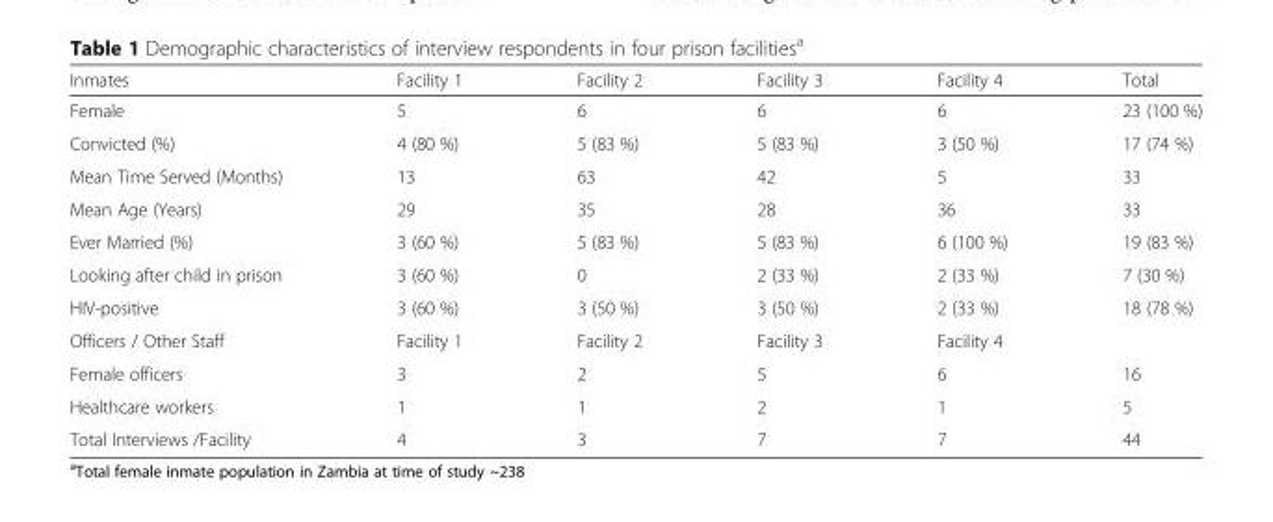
<table><thead><tr><td>Inmates</td><td>Facility 1</td><td>Facility 2</td><td>Facility 3</td><td>Facility 4</td><td>Total</td></tr></thead><tbody><tr><td>Female</td><td>5</td><td>6</td><td>6</td><td>6</td><td>23 (100 %)</td></tr><tr><td>Convicted (%)</td><td>4 (80 %)</td><td>5 (83 %)</td><td>5 (83 %)</td><td>3 (50 %)</td><td>17 (74 %)</td></tr><tr><td>Mean Time Served (Months)</td><td>13</td><td>63</td><td>42</td><td>5</td><td>33</td></tr><tr><td>Mean Age (Years)</td><td>29</td><td>35</td><td>28</td><td>36</td><td>33</td></tr><tr><td>Ever Married (%)</td><td>3 (60 %)</td><td>5 (83 %)</td><td>5 (83 %)</td><td>6 (100 %)</td><td>19 (83 %)</td></tr><tr><td>Looking after child in prison</td><td>3 (60 %)</td><td>0</td><td>2 (33 %)</td><td>2 (33 %)</td><td>7 (30 %)</td></tr><tr><td>HIV-positive</td><td>3 (60 %)</td><td>3 (50 %)</td><td>3 (50 %)</td><td>2 (33 %)</td><td>18 (78 %)</td></tr><tr><td>Officers / Other Staff</td><td>Facility 1</td><td>Facility 2</td><td>Facility 3</td><td>Facility 4</td><td></td></tr><tr><td>Female officers</td><td>3</td><td>2</td><td>5</td><td>6</td><td>16</td></tr><tr><td>Healthcare workers</td><td>1</td><td>1</td><td>2</td><td>1</td><td>5</td></tr><tr><td>Total Interviews /Facility</td><td>4</td><td>3</td><td>7</td><td>7</td><td>44</td></tr></tbody></table>